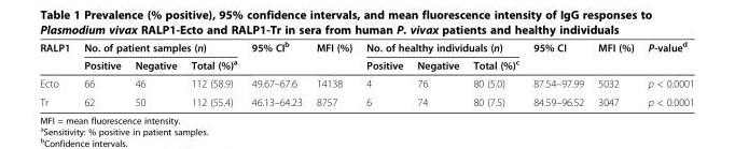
<table><thead><tr><td rowspan="2">RALP1</td><td colspan="3">No. of patient samples (n)</td><td rowspan="2">95% CI<sup>b</sup></td><td rowspan="2">MFI (%)</td><td colspan="3">No. of healthy individuals (n)</td><td rowspan="2">95% CI</td><td rowspan="2">MFI (%)</td><td rowspan="2">P-value<sup>d</sup></td></tr><tr><td>Positive</td><td>Negative</td><td>Total (%)<sup>a</sup></td><td>Positive</td><td>Negative</td><td>Total (%)<sup>c</sup></td></tr></thead><tbody><tr><td>Ecto</td><td>66</td><td>46</td><td>112 (58.9)</td><td>49.67–67.6</td><td>14138</td><td>4</td><td>76</td><td>80 (5.0)</td><td>87.54–97.99</td><td>5032</td><td>p &lt; 0.0001</td></tr><tr><td>Tr</td><td>62</td><td>50</td><td>112 (55.4)</td><td>46.13–64.23</td><td>8757</td><td>6</td><td>74</td><td>80 (7.5)</td><td>84.59–96.52</td><td>3047</td><td>p &lt; 0.0001</td></tr></tbody></table>